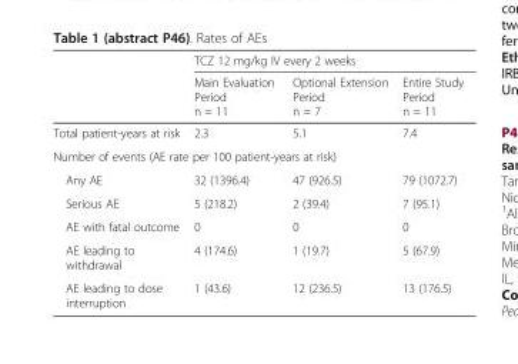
<table><thead><tr><td rowspan="2"></td><td colspan="3">TCZ 12 mg/kg IV every 2 weeks</td></tr><tr><td>Main Evaluation Period n = 11</td><td>Optional Extension Period n = 7</td><td>Entire Study Period n = 11</td></tr></thead><tbody><tr><td>Total patient-years at risk</td><td>2.3</td><td>5.1</td><td>7.4</td></tr><tr><td colspan="4">Number of events (AE rate per 100 patient-years at risk)</td></tr><tr><td>Any AE</td><td>32 (1396.4)</td><td>47 (926.5)</td><td>79 (1072.7)</td></tr><tr><td>Serious AE</td><td>5 (218.2)</td><td>2 (39.4)</td><td>7 (95.1)</td></tr><tr><td>AE with fatal outcome</td><td>0</td><td>0</td><td>0</td></tr><tr><td>AE leading to withdrawal</td><td>4 (174.6)</td><td>1 (19.7)</td><td>5 (67.9)</td></tr><tr><td>AE leading to dose interruption</td><td>1 (43.6)</td><td>12 (236.5)</td><td>13 (176.5)</td></tr></tbody></table>